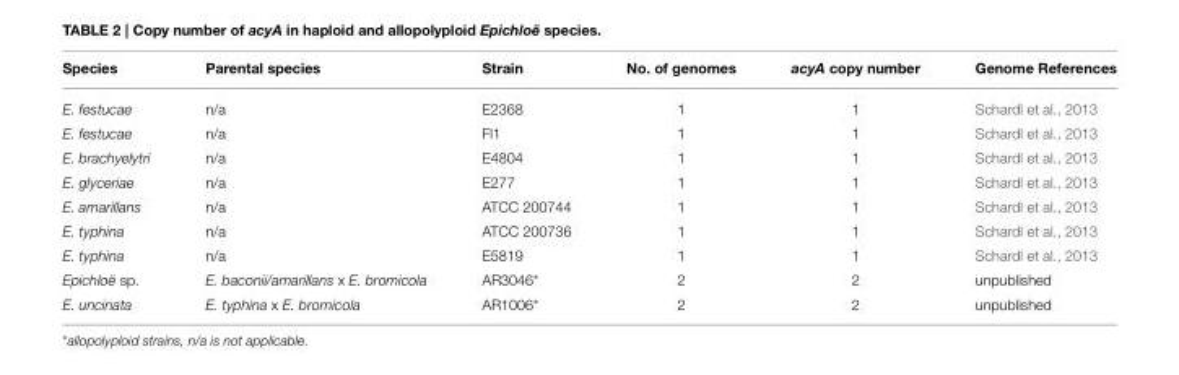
<table><thead><tr><td>Species</td><td>Parental species</td><td>Strain</td><td>No. of genomes</td><td>acyA copy number</td><td>Genome References</td></tr></thead><tbody><tr><td>E. festucae</td><td>n/a</td><td>E2368</td><td>1</td><td>1</td><td>Schardl et al., 2013</td></tr><tr><td>E. festucae</td><td>n/a</td><td>Fl1</td><td>1</td><td>1</td><td>Schardl et al., 2013</td></tr><tr><td>E. brachyelytri</td><td>n/a</td><td>E4804</td><td>1</td><td>1</td><td>Schardl et al., 2013</td></tr><tr><td>E. glyceriae</td><td>n/a</td><td>E277</td><td>1</td><td>1</td><td>Schardl et al., 2013</td></tr><tr><td>E. amarillans</td><td>n/a</td><td>ATCC 200744</td><td>1</td><td>1</td><td>Schardl et al., 2013</td></tr><tr><td>E. typhina</td><td>n/a</td><td>ATCC 200736</td><td>1</td><td>1</td><td>Schardl et al., 2013</td></tr><tr><td>E. typhina</td><td>n/a</td><td>E5819</td><td>1</td><td>1</td><td>Schardl et al., 2013</td></tr><tr><td>Epichloë sp.</td><td>E. baconii/amarillans x E. bromicola</td><td>AR3046*</td><td>2</td><td>2</td><td>unpublished</td></tr><tr><td>E. uncinata</td><td>E. typhina x E. bromicola</td><td>AR1006*</td><td>2</td><td>2</td><td>unpublished</td></tr></tbody></table>